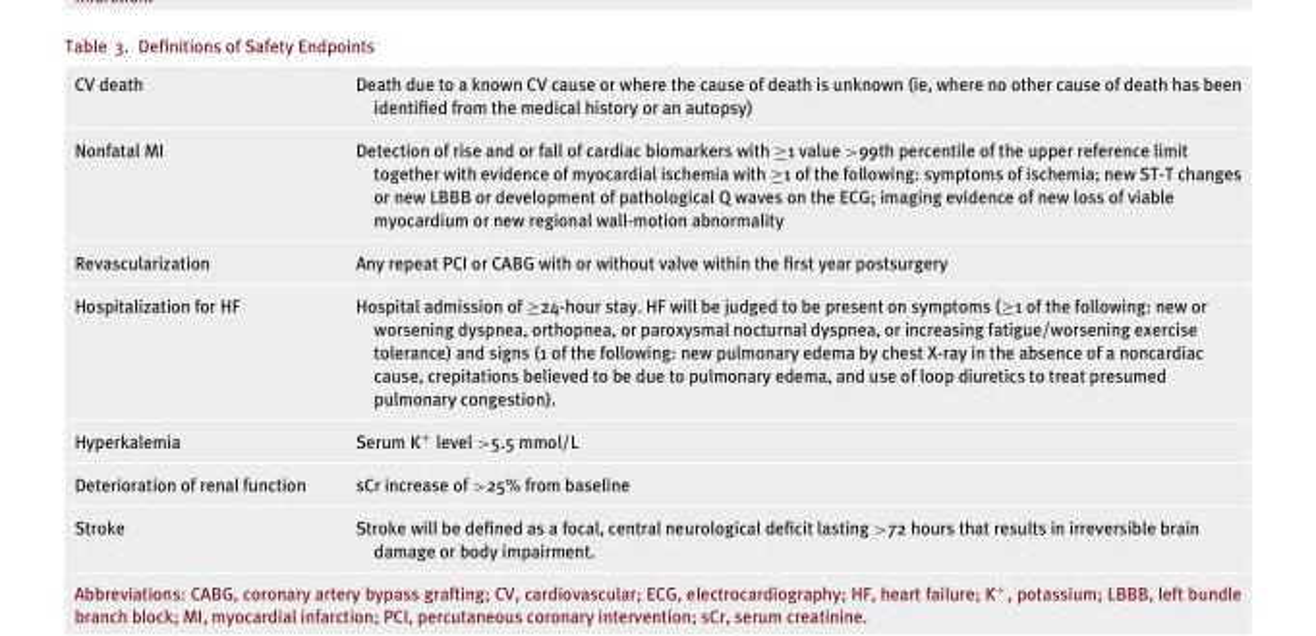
<table><tbody><tr><td>CV death</td><td>Death due to a known CV cause or where the cause of death is unknown (ie, where no other cause of death has been identified from the medical history or an autopsy)</td></tr><tr><td>Nonfatal MI</td><td>Detection of rise and or fall of cardiac biomarkers with ≥1 value &gt;99th percentile of the upper reference limit together with evidence of myocardial ischemia with ≥1 of the following: symptoms of ischemia; new ST-T changes or new LBBB or development of pathological Q waves on the ECG; imaging evidence of new loss of viable myocardium or new regional wall-motion abnormality</td></tr><tr><td>Revascularization</td><td>Any repeat PCI or CABG with or without valve within the first year postsurgery</td></tr><tr><td>Hospitalization for HF</td><td>Hospital admission of ≥24-hour stay. HF will be judged to be present on symptoms (≥1 of the following: new or worsening dyspnea, orthopnea, or paroxysmal nocturnal dyspnea, or increasing fatigue/worsening exercise tolerance) and signs (1 of the following: new pulmonary edema by chest X-ray in the absence of a noncardiac cause, crepitations believed to be due to pulmonary edema, and use of loop diuretics to treat presumed pulmonary congestion).</td></tr><tr><td>Hyperkalemia</td><td>Serum K<sup>+</sup> level &gt;5.5 mmol/L</td></tr><tr><td>Deterioration of renal function</td><td>sCr increase of &gt;25% from baseline</td></tr><tr><td>Stroke</td><td>Stroke will be defined as a focal, central neurological deficit lasting &gt;72 hours that results in irreversible brain damage or body impairment.</td></tr></tbody></table>